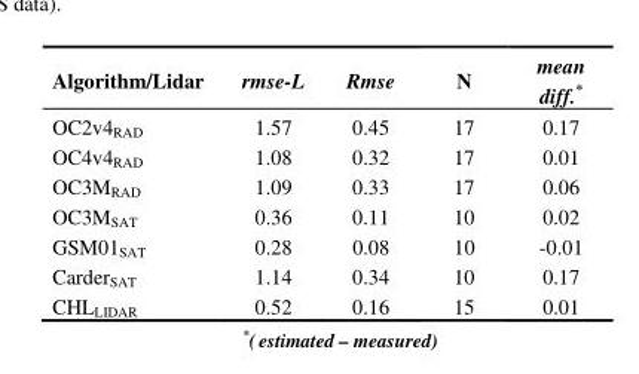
<table><thead><tr><td>Algorithm/Lidar</td><td>rmse-L</td><td>Rmse</td><td>N</td><td>mean diff.*</td></tr></thead><tbody><tr><td>OC2v4<sub>RAD</sub></td><td>1.57</td><td>0.45</td><td>17</td><td>0.17</td></tr><tr><td>OC4v4<sub>RAD</sub></td><td>1.08</td><td>0.32</td><td>17</td><td>0.01</td></tr><tr><td>OC3M<sub>RAD</sub></td><td>1.09</td><td>0.33</td><td>17</td><td>0.06</td></tr><tr><td>OC3M<sub>SAT</sub></td><td>0.36</td><td>0.11</td><td>10</td><td>0.02</td></tr><tr><td>GSM01<sub>SAT</sub></td><td>0.28</td><td>0.08</td><td>10</td><td>-0.01</td></tr><tr><td>Carder<sub>SAT</sub></td><td>1.14</td><td>0.34</td><td>10</td><td>0.17</td></tr><tr><td>CHL<sub>LIDAR</sub></td><td>0.52</td><td>0.16</td><td>15</td><td>0.01</td></tr></tbody></table>